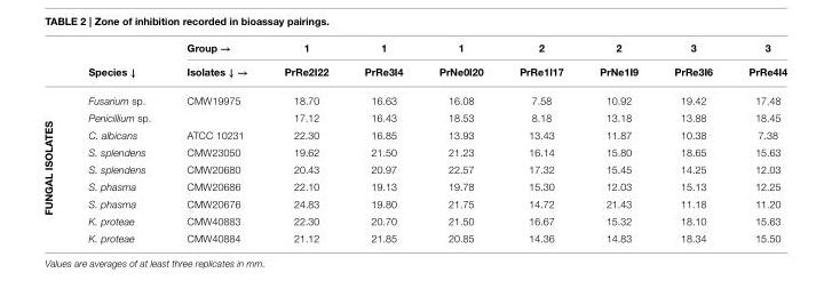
<table><thead><tr><td rowspan="2"></td><td rowspan="2">Species ↓</td><td rowspan="2">Group → Isolates ↓ →</td><td rowspan="2">1 PrRe2I22</td><td rowspan="2">1 PrRe3I4</td><td rowspan="2">1 PrNe0I20</td><td rowspan="2">2 PrRe1I17</td><td rowspan="2">2 PrNe1I9</td><td rowspan="2">3 PrRe3I6</td><td rowspan="2">3 PrRe4I4</td></tr><tr></tr></thead><tbody><tr><td rowspan="9">FUNGAL ISOLATES</td><td>Fusarium sp.</td><td>CMW19975</td><td>18.70</td><td>16.63</td><td>16.08</td><td>7.58</td><td>10.92</td><td>19.42</td><td>17.48</td></tr><tr><td>Penicillium sp.</td><td></td><td>17.12</td><td>16.43</td><td>18.53</td><td>8.18</td><td>13.18</td><td>13.88</td><td>18.45</td></tr><tr><td>C. albicans</td><td>ATCC 10231</td><td>22.30</td><td>16.85</td><td>13.93</td><td>13.43</td><td>11.87</td><td>10.38</td><td>7.38</td></tr><tr><td>S. splendens</td><td>CMW23050</td><td>19.62</td><td>21.50</td><td>21.23</td><td>16.14</td><td>15.80</td><td>18.65</td><td>15.63</td></tr><tr><td>S. splendens</td><td>CMW20680</td><td>20.43</td><td>20.97</td><td>22.57</td><td>17.32</td><td>15.45</td><td>14.25</td><td>12.03</td></tr><tr><td>S. phasma</td><td>CMW20686</td><td>22.10</td><td>19.13</td><td>19.78</td><td>15.30</td><td>12.03</td><td>15.13</td><td>12.25</td></tr><tr><td>S. phasma</td><td>CMW20676</td><td>24.83</td><td>19.80</td><td>21.75</td><td>14.72</td><td>21.43</td><td>11.18</td><td>11.20</td></tr><tr><td>K. proteae</td><td>CMW40883</td><td>22.30</td><td>20.70</td><td>21.50</td><td>16.67</td><td>15.32</td><td>18.10</td><td>15.63</td></tr><tr><td>K. proteae</td><td>CMW40884</td><td>21.12</td><td>21.85</td><td>20.85</td><td>14.36</td><td>14.83</td><td>18.34</td><td>15.50</td></tr></tbody></table>